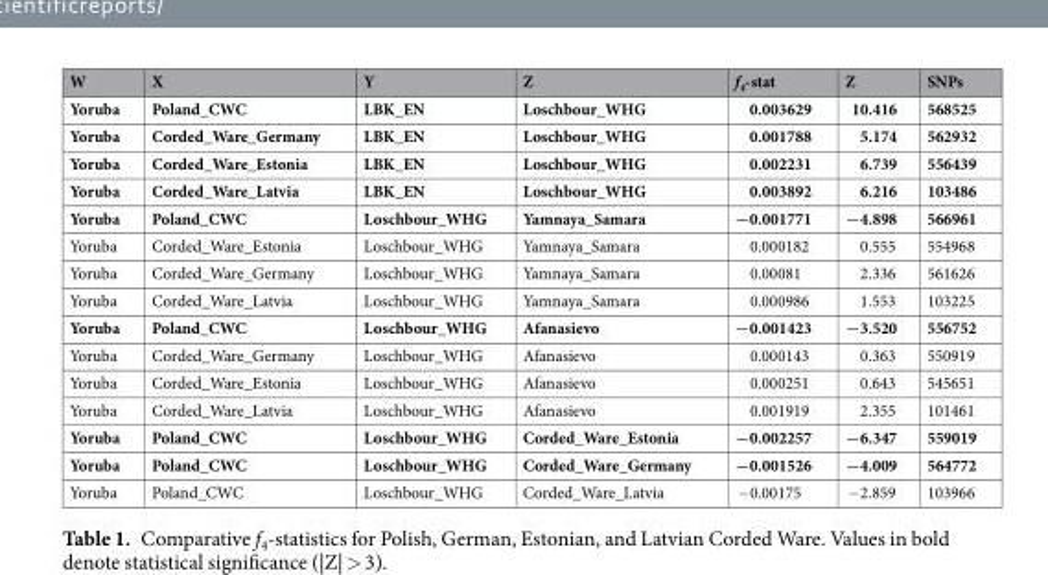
<table><thead><tr><td>W</td><td>X</td><td>Y</td><td>Z</td><td>f<sub>4</sub>-stat</td><td>Z</td><td>SNPs</td></tr></thead><tbody><tr><td>Yoruba</td><td>Poland_CWC</td><td>LBK_EN</td><td>Loschbour_WHG</td><td>0.003629</td><td>10.416</td><td>568525</td></tr><tr><td>Yoruba</td><td>Corded_Ware_Germany</td><td>LBK_EN</td><td>Loschbour_WHG</td><td>0.001788</td><td>5.174</td><td>562932</td></tr><tr><td>Yoruba</td><td>Corded_Ware_Estonia</td><td>LBK_EN</td><td>Loschbour_WHG</td><td>0.002231</td><td>6.739</td><td>556439</td></tr><tr><td>Yoruba</td><td>Corded_Ware_Latvia</td><td>LBK_EN</td><td>Loschbour_WHG</td><td>0.003892</td><td>6.216</td><td>103486</td></tr><tr><td>Yoruba</td><td>Poland_CWC</td><td>Loschbour_WHG</td><td>Yamnaya_Samara</td><td>−0.001771</td><td>−4.898</td><td>566961</td></tr><tr><td>Yoruba</td><td>Corded_Ware_Estonia</td><td>Loschbour_WHG</td><td>Yamnaya_Samara</td><td>0.000182</td><td>0.555</td><td>554968</td></tr><tr><td>Yoruba</td><td>Corded_Ware_Germany</td><td>Loschbour_WHG</td><td>Yamnaya_Samara</td><td>0.00081</td><td>2.336</td><td>561626</td></tr><tr><td>Yoruba</td><td>Corded_Ware_Latvia</td><td>Loschbour_WHG</td><td>Yamnaya_Samara</td><td>0.000986</td><td>1.553</td><td>103225</td></tr><tr><td>Yoruba</td><td>Poland_CWC</td><td>Loschbour_WHG</td><td>Afanasievo</td><td>−0.001423</td><td>−3.520</td><td>556752</td></tr><tr><td>Yoruba</td><td>Corded_Ware_Germany</td><td>Loschbour_WHG</td><td>Afanasievo</td><td>0.000143</td><td>0.363</td><td>550919</td></tr><tr><td>Yoruba</td><td>Corded_Ware_Estonia</td><td>Loschbour_WHG</td><td>Afanasievo</td><td>0.000251</td><td>0.643</td><td>545651</td></tr><tr><td>Yoruba</td><td>Corded_Ware_Latvia</td><td>Loschbour_WHG</td><td>Afanasievo</td><td>0.001919</td><td>2.355</td><td>101461</td></tr><tr><td>Yoruba</td><td>Poland_CWC</td><td>Loschbour_WHG</td><td>Corded_Ware_Estonia</td><td>−0.002257</td><td>−6.347</td><td>559019</td></tr><tr><td>Yoruba</td><td>Poland_CWC</td><td>Loschbour_WHG</td><td>Corded_Ware_Germany</td><td>−0.001526</td><td>−4.009</td><td>564772</td></tr><tr><td>Yoruba</td><td>Poland_CWC</td><td>Loschbour_WHG</td><td>Corded_Ware_Latvia</td><td>−0.00175</td><td>−2.859</td><td>103966</td></tr></tbody></table>